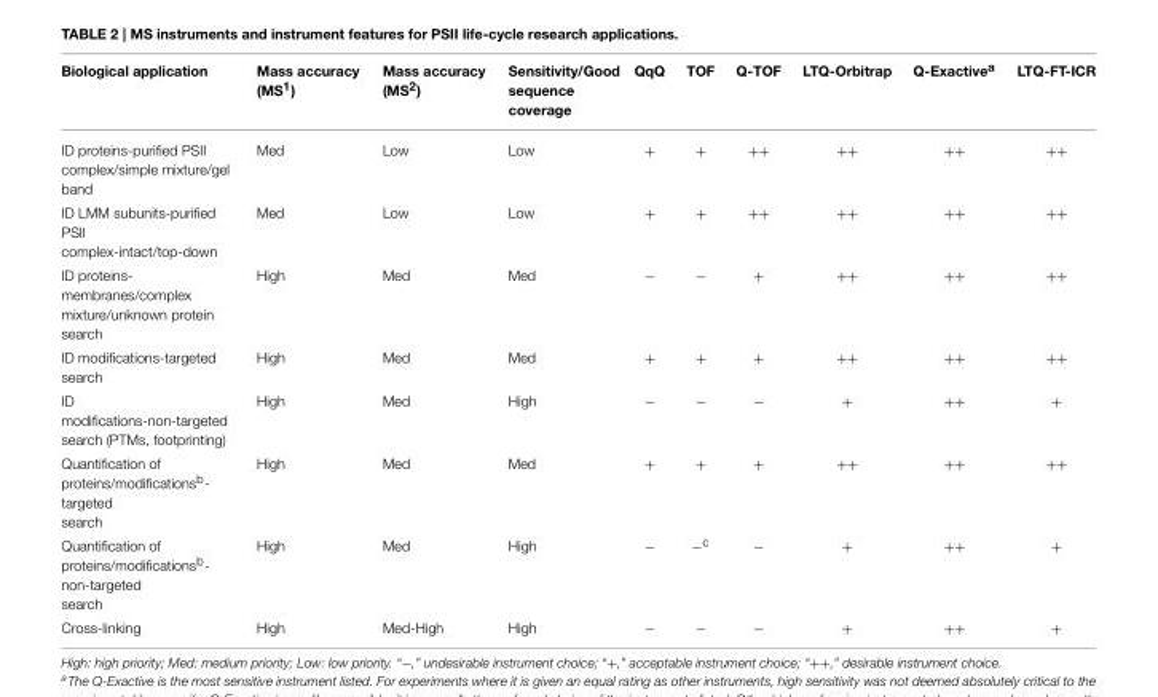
<table><thead><tr><td>Biological application</td><td>Mass accuracy (MS<sup>1</sup>)</td><td>Mass accuracy (MS<sup>2</sup>)</td><td>Sensitivity/Good sequence coverage</td><td>QqQ</td><td>TOF</td><td>Q-TOF</td><td>LTQ-Orbitrap</td><td>Q-Exactive<sup>a</sup></td><td>LTQ-FT-ICR</td></tr></thead><tbody><tr><td>ID proteins-purified PSII complex/simple mixture/gel band</td><td>Med</td><td>Low</td><td>Low</td><td>+</td><td>+</td><td>++</td><td>++</td><td>++</td><td>++</td></tr><tr><td>ID LMM subunits-purified PSII complex-intact/top-down</td><td>Med</td><td>Low</td><td>Low</td><td>+</td><td>+</td><td>++</td><td>++</td><td>++</td><td>++</td></tr><tr><td>ID proteins- membranes/complex mixture/unknown protein search</td><td>High</td><td>Med</td><td>Med</td><td>−</td><td>−</td><td>+</td><td>++</td><td>++</td><td>++</td></tr><tr><td>ID modifications-targeted search</td><td>High</td><td>Med</td><td>Med</td><td>+</td><td>+</td><td>+</td><td>++</td><td>++</td><td>++</td></tr><tr><td>ID modifications-non-targeted search (PTMs, footprinting)</td><td>High</td><td>Med</td><td>High</td><td>−</td><td>−</td><td>−</td><td>+</td><td>++</td><td>+</td></tr><tr><td>Quantification of proteins/modifications<sup>b</sup>- targeted search</td><td>High</td><td>Med</td><td>Med</td><td>+</td><td>+</td><td>+</td><td>++</td><td>++</td><td>++</td></tr><tr><td>Quantification of proteins/modifications<sup>b</sup>- non-targeted search</td><td>High</td><td>Med</td><td>High</td><td>−</td><td>−<sup>c</sup></td><td>−</td><td>+</td><td>++</td><td>+</td></tr><tr><td>Cross-linking</td><td>High</td><td>Med-High</td><td>High</td><td>−</td><td>−</td><td>−</td><td>+</td><td>++</td><td>+</td></tr></tbody></table>